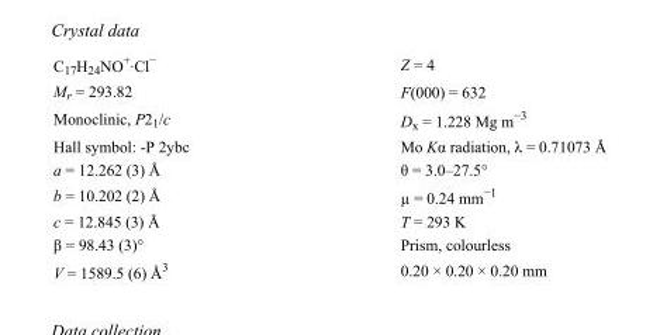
<table><tbody><tr><td>C<sub>17</sub>H<sub>24</sub>NO<sup>+</sup>·Cl<sup>−</sup></td><td>Z = 4</td></tr><tr><td>M<sub>r</sub> = 293.82</td><td>F(000) = 632</td></tr><tr><td>Monoclinic, P2<sub>1</sub>/c</td><td>D<sub>x</sub> = 1.228 Mg m<sup>−3</sup></td></tr><tr><td>Hall symbol: -P 2ybc</td><td>Mo Kα radiation, λ = 0.71073 Å</td></tr><tr><td>a = 12.262 (3) Å</td><td>θ = 3.0–27.5°</td></tr><tr><td>b = 10.202 (2) Å</td><td>µ = 0.24 mm<sup>−1</sup></td></tr><tr><td>c = 12.845 (3) Å</td><td>T = 293 K</td></tr><tr><td>β = 98.43 (3)°</td><td>Prism, colourless</td></tr><tr><td>V = 1589.5 (6) Å<sup>3</sup></td><td>0.20 × 0.20 × 0.20 mm</td></tr></tbody></table>